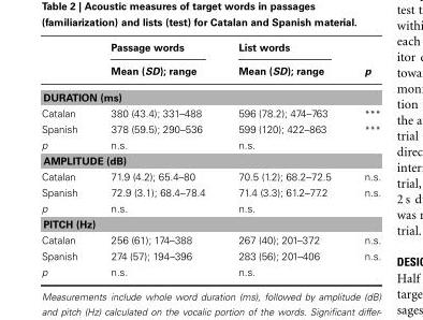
<table><thead><tr><td rowspan="2"></td><td rowspan="2">Passage words Mean (SD); range</td><td rowspan="2">List words Mean (SD); range</td><td rowspan="2">p</td></tr><tr></tr></thead><tbody><tr><td colspan="4">DURATION (ms)</td></tr><tr><td>Catalan</td><td>380 (43.4); 331–488</td><td>596 (78.2); 474–763</td><td>***</td></tr><tr><td>Spanish</td><td>378 (59.5); 290–536</td><td>599 (120); 422–863</td><td>***</td></tr><tr><td>p</td><td>n.s.</td><td>n.s.</td><td></td></tr><tr><td colspan="4">AMPLITUDE (dB)</td></tr><tr><td>Catalan</td><td>71.9 (4.2); 65.4–80</td><td>70.5 (1.2); 68.2–72.5</td><td>n.s.</td></tr><tr><td>Spanish</td><td>72.9 (3.1); 68.4–78.4</td><td>71.4 (3.3); 61.2–77.2</td><td>n.s.</td></tr><tr><td>p</td><td>n.s.</td><td>n.s.</td><td></td></tr><tr><td colspan="4">PITCH (Hz)</td></tr><tr><td>Catalan</td><td>256 (61); 174–388</td><td>267 (40); 201–372</td><td>n.s.</td></tr><tr><td>Spanish</td><td>274 (57); 194–396</td><td>283 (56); 201–406</td><td>n.s.</td></tr><tr><td>p</td><td>n.s.</td><td>n.s.</td><td></td></tr></tbody></table>